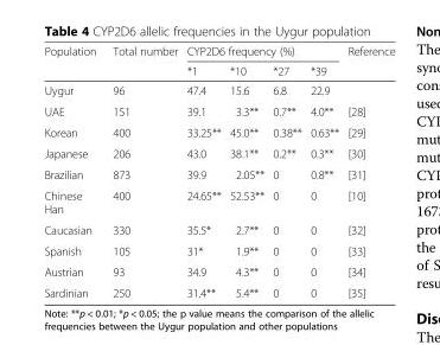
<table><thead><tr><td rowspan="2">Population</td><td rowspan="2">Total number</td><td colspan="4">CYP2D6 frequency (%)</td><td rowspan="2">Reference</td></tr><tr><td>*1</td><td>*10</td><td>*27</td><td>*39</td></tr></thead><tbody><tr><td>Uygur</td><td>96</td><td>47.4</td><td>15.6</td><td>6.8</td><td>22.9</td><td></td></tr><tr><td>UAE</td><td>151</td><td>39.1</td><td>3.3**</td><td>0.7**</td><td>4.0**</td><td>[28]</td></tr><tr><td>Korean</td><td>400</td><td>33.25**</td><td>45.0**</td><td>0.38**</td><td>0.63**</td><td>[29]</td></tr><tr><td>Japanese</td><td>206</td><td>43.0</td><td>38.1**</td><td>0.2**</td><td>0.3**</td><td>[30]</td></tr><tr><td>Brazilian</td><td>873</td><td>39.9</td><td>2.05**</td><td>0</td><td>0.8**</td><td>[31]</td></tr><tr><td>Chinese Han</td><td>400</td><td>24.65**</td><td>52.53**</td><td>0</td><td>0</td><td>[10]</td></tr><tr><td>Caucasian</td><td>330</td><td>35.5*</td><td>2.7**</td><td>0</td><td>0</td><td>[32]</td></tr><tr><td>Spanish</td><td>105</td><td>31*</td><td>1.9**</td><td>0</td><td>0</td><td>[33]</td></tr><tr><td>Austrian</td><td>93</td><td>34.9</td><td>4.3**</td><td>0</td><td>0</td><td>[34]</td></tr><tr><td>Sardinian</td><td>250</td><td>31.4**</td><td>5.4**</td><td>0</td><td>0</td><td>[35]</td></tr></tbody></table>